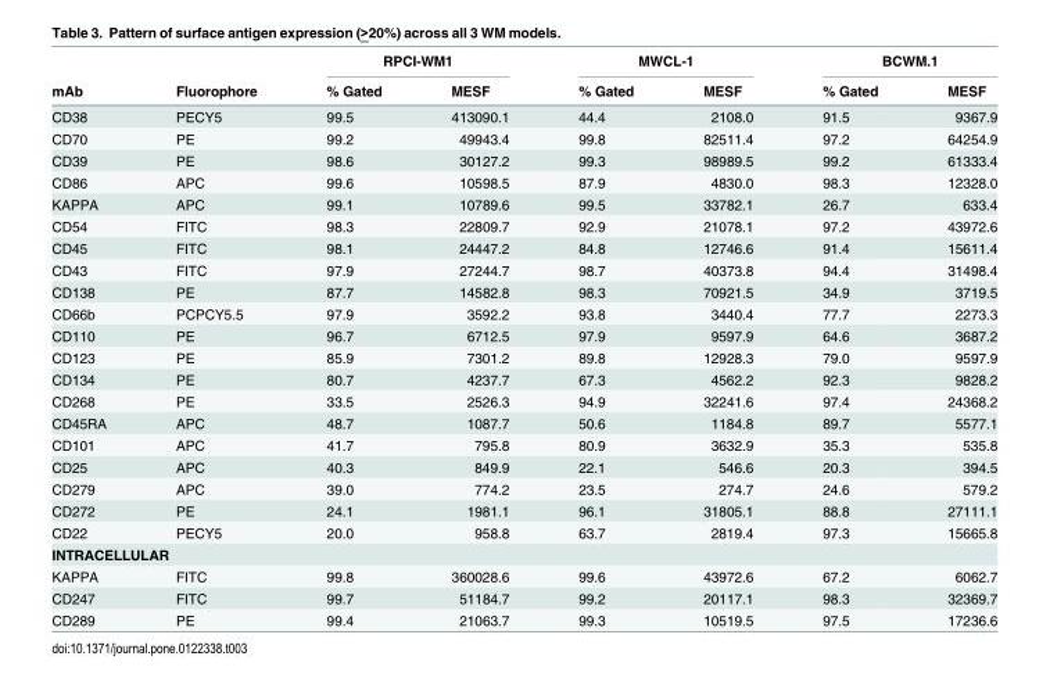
<table><thead><tr><td rowspan="2">mAb</td><td rowspan="2">Fluorophore</td><td colspan="2">RPCI-WM1</td><td colspan="2">MWCL-1</td><td colspan="2">BCWM.1</td></tr><tr><td>% Gated</td><td>MESF</td><td>% Gated</td><td>MESF</td><td>% Gated</td><td>MESF</td></tr></thead><tbody><tr><td>CD38</td><td>PECY5</td><td>99.5</td><td>413090.1</td><td>44.4</td><td>2108.0</td><td>91.5</td><td>9367.9</td></tr><tr><td>CD70</td><td>PE</td><td>99.2</td><td>49943.4</td><td>99.8</td><td>82511.4</td><td>97.2</td><td>64254.9</td></tr><tr><td>CD39</td><td>PE</td><td>98.6</td><td>30127.2</td><td>99.3</td><td>98989.5</td><td>99.2</td><td>61333.4</td></tr><tr><td>CD86</td><td>APC</td><td>99.6</td><td>10598.5</td><td>87.9</td><td>4830.0</td><td>98.3</td><td>12328.0</td></tr><tr><td>KAPPA</td><td>APC</td><td>99.1</td><td>10789.6</td><td>99.5</td><td>33782.1</td><td>26.7</td><td>633.4</td></tr><tr><td>CD54</td><td>FITC</td><td>98.3</td><td>22809.7</td><td>92.9</td><td>21078.1</td><td>97.2</td><td>43972.6</td></tr><tr><td>CD45</td><td>FITC</td><td>98.1</td><td>24447.2</td><td>84.8</td><td>12746.6</td><td>91.4</td><td>15611.4</td></tr><tr><td>CD43</td><td>FITC</td><td>97.9</td><td>27244.7</td><td>98.7</td><td>40373.8</td><td>94.4</td><td>31498.4</td></tr><tr><td>CD138</td><td>PE</td><td>87.7</td><td>14582.8</td><td>98.3</td><td>70921.5</td><td>34.9</td><td>3719.5</td></tr><tr><td>CD66b</td><td>PCPCY5.5</td><td>97.9</td><td>3592.2</td><td>93.8</td><td>3440.4</td><td>77.7</td><td>2273.3</td></tr><tr><td>CD110</td><td>PE</td><td>96.7</td><td>6712.5</td><td>97.9</td><td>9597.9</td><td>64.6</td><td>3687.2</td></tr><tr><td>CD123</td><td>PE</td><td>85.9</td><td>7301.2</td><td>89.8</td><td>12928.3</td><td>79.0</td><td>9597.9</td></tr><tr><td>CD134</td><td>PE</td><td>80.7</td><td>4237.7</td><td>67.3</td><td>4562.2</td><td>92.3</td><td>9828.2</td></tr><tr><td>CD268</td><td>PE</td><td>33.5</td><td>2526.3</td><td>94.9</td><td>32241.6</td><td>97.4</td><td>24368.2</td></tr><tr><td>CD45RA</td><td>APC</td><td>48.7</td><td>1087.7</td><td>50.6</td><td>1184.8</td><td>89.7</td><td>5577.1</td></tr><tr><td>CD101</td><td>APC</td><td>41.7</td><td>795.8</td><td>80.9</td><td>3632.9</td><td>35.3</td><td>535.8</td></tr><tr><td>CD25</td><td>APC</td><td>40.3</td><td>849.9</td><td>22.1</td><td>546.6</td><td>20.3</td><td>394.5</td></tr><tr><td>CD279</td><td>APC</td><td>39.0</td><td>774.2</td><td>23.5</td><td>274.7</td><td>24.6</td><td>579.2</td></tr><tr><td>CD272</td><td>PE</td><td>24.1</td><td>1981.1</td><td>96.1</td><td>31805.1</td><td>88.8</td><td>27111.1</td></tr><tr><td>CD22</td><td>PECY5</td><td>20.0</td><td>958.8</td><td>63.7</td><td>2819.4</td><td>97.3</td><td>15665.8</td></tr><tr><td colspan="8">INTRACELLULAR</td></tr><tr><td>KAPPA</td><td>FITC</td><td>99.8</td><td>360028.6</td><td>99.6</td><td>43972.6</td><td>67.2</td><td>6062.7</td></tr><tr><td>CD247</td><td>FITC</td><td>99.7</td><td>51184.7</td><td>99.2</td><td>20117.1</td><td>98.3</td><td>32369.7</td></tr><tr><td>CD289</td><td>PE</td><td>99.4</td><td>21063.7</td><td>99.3</td><td>10519.5</td><td>97.5</td><td>17236.6</td></tr></tbody></table>